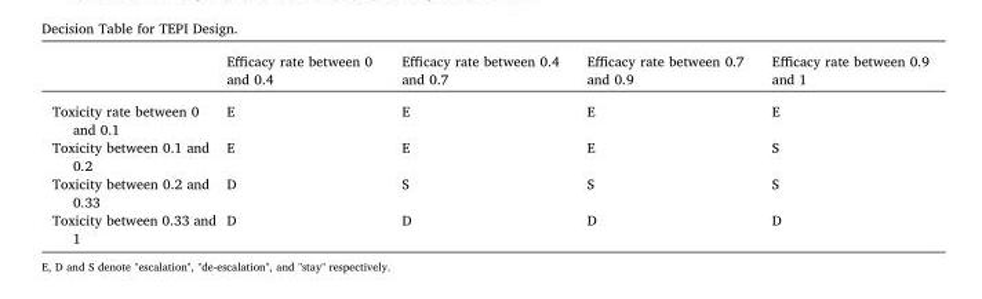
<table><thead><tr><td></td><td>Efficacy rate between 0 and 0.4</td><td>Efficacy rate between 0.4 and 0.7</td><td>Efficacy rate between 0.7 and 0.9</td><td>Efficacy rate between 0.9 and 1</td></tr></thead><tbody><tr><td>Toxicity rate between 0 and 0.1</td><td>E</td><td>E</td><td>E</td><td>E</td></tr><tr><td>Toxicity between 0.1 and 0.2</td><td>E</td><td>E</td><td>E</td><td>S</td></tr><tr><td>Toxicity between 0.2 and 0.33</td><td>D</td><td>S</td><td>S</td><td>S</td></tr><tr><td>Toxicity between 0.33 and 1</td><td>D</td><td>D</td><td>D</td><td>D</td></tr></tbody></table>